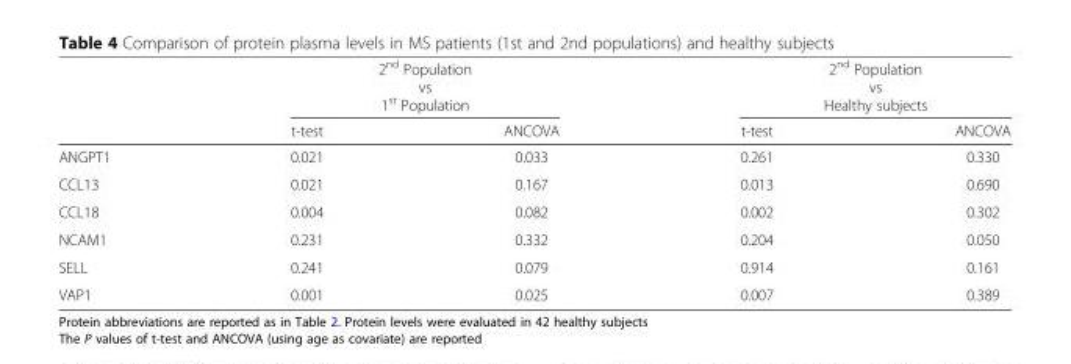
<table><thead><tr><td rowspan="2"></td><td colspan="2">2<sup>nd</sup> Population vs 1<sup>st</sup> Population</td><td colspan="2">2<sup>nd</sup> Population vs Healthy subjects</td></tr><tr><td>t-test</td><td>ANCOVA</td><td>t-test</td><td>ANCOVA</td></tr></thead><tbody><tr><td>ANGPT1</td><td>0.021</td><td>0.033</td><td>0.261</td><td>0.330</td></tr><tr><td>CCL13</td><td>0.021</td><td>0.167</td><td>0.013</td><td>0.690</td></tr><tr><td>CCL18</td><td>0.004</td><td>0.082</td><td>0.002</td><td>0.302</td></tr><tr><td>NCAM1</td><td>0.231</td><td>0.332</td><td>0.204</td><td>0.050</td></tr><tr><td>SELL</td><td>0.241</td><td>0.079</td><td>0.914</td><td>0.161</td></tr><tr><td>VAP1</td><td>0.001</td><td>0.025</td><td>0.007</td><td>0.389</td></tr></tbody></table>